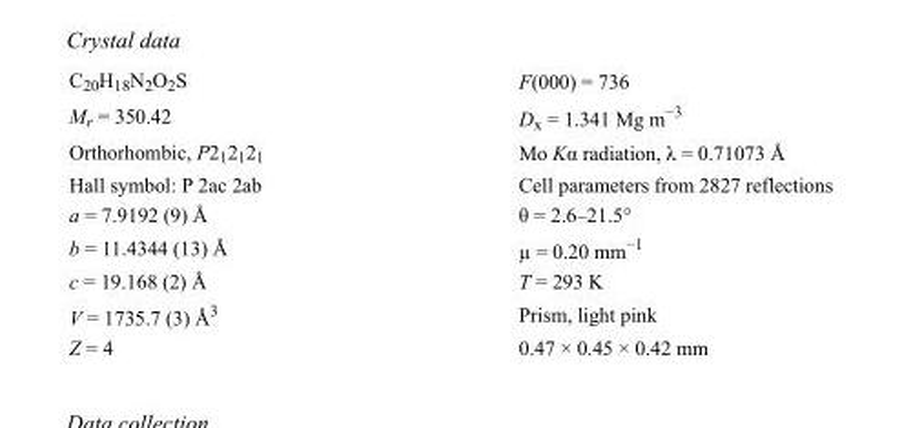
<table><tbody><tr><td>C<sub>20</sub>H<sub>18</sub>N<sub>2</sub>O<sub>2</sub>S</td><td>F(000) = 736</td></tr><tr><td>M<sub>r</sub> = 350.42</td><td>D<sub>x</sub> = 1.341 Mg m<sup>−3</sup></td></tr><tr><td>Orthorhombic, P2<sub>1</sub>2<sub>1</sub>2<sub>1</sub></td><td>Mo Kα radiation, λ = 0.71073 Å</td></tr><tr><td>Hall symbol: P 2ac 2ab</td><td>Cell parameters from 2827 reflections</td></tr><tr><td>a = 7.9192 (9) Å</td><td>θ = 2.6–21.5°</td></tr><tr><td>b = 11.4344 (13) Å</td><td>µ = 0.20 mm<sup>−1</sup></td></tr><tr><td>c = 19.168 (2) Å</td><td>T = 293 K</td></tr><tr><td>V = 1735.7 (3) Å<sup>3</sup></td><td>Prism, light pink</td></tr><tr><td>Z = 4</td><td>0.47 × 0.45 × 0.42 mm</td></tr></tbody></table>